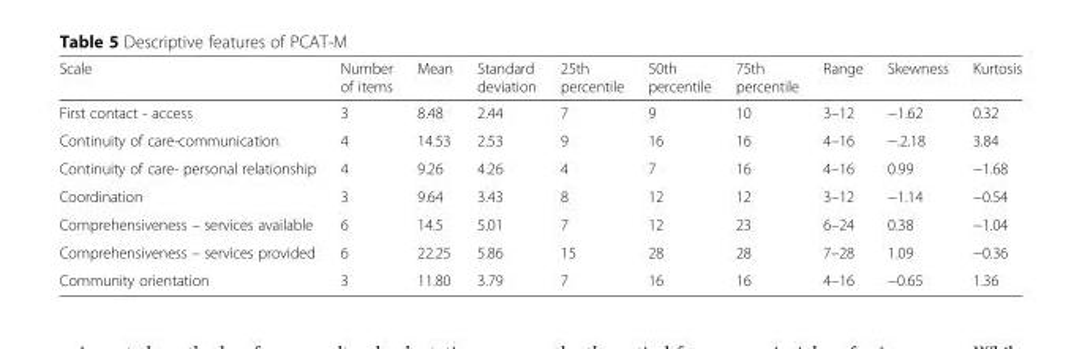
<table><thead><tr><td>Scale</td><td>Number of items</td><td>Mean</td><td>Standard deviation</td><td>25th percentile</td><td>50th percentile</td><td>75th percentile</td><td>Range</td><td>Skewness</td><td>Kurtosis</td></tr></thead><tbody><tr><td>First contact - access</td><td>3</td><td>8.48</td><td>2.44</td><td>7</td><td>9</td><td>10</td><td>3–12</td><td>−1.62</td><td>0.32</td></tr><tr><td>Continuity of care-communication</td><td>4</td><td>14.53</td><td>2.53</td><td>9</td><td>16</td><td>16</td><td>4–16</td><td>−.2.18</td><td>3.84</td></tr><tr><td>Continuity of care- personal relationship</td><td>4</td><td>9.26</td><td>4.26</td><td>4</td><td>7</td><td>16</td><td>4–16</td><td>0.99</td><td>−1.68</td></tr><tr><td>Coordination</td><td>3</td><td>9.64</td><td>3.43</td><td>8</td><td>12</td><td>12</td><td>3–12</td><td>−1.14</td><td>−0.54</td></tr><tr><td>Comprehensiveness – services available</td><td>6</td><td>14.5</td><td>5.01</td><td>7</td><td>12</td><td>23</td><td>6–24</td><td>0.38</td><td>−1.04</td></tr><tr><td>Comprehensiveness – services provided</td><td>6</td><td>22.25</td><td>5.86</td><td>15</td><td>28</td><td>28</td><td>7–28</td><td>1.09</td><td>−0.36</td></tr><tr><td>Community orientation</td><td>3</td><td>11.80</td><td>3.79</td><td>7</td><td>16</td><td>16</td><td>4–16</td><td>−0.65</td><td>1.36</td></tr></tbody></table>